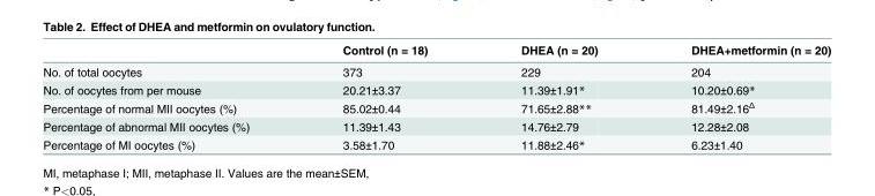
<table><thead><tr><td></td><td>Control (n = 18)</td><td>DHEA (n = 20)</td><td>DHEA+metformin (n = 20)</td></tr></thead><tbody><tr><td>No. of total oocytes</td><td>373</td><td>229</td><td>204</td></tr><tr><td>No. of oocytes from per mouse</td><td>20.21±3.37</td><td>11.39±1.91*</td><td>10.20±0.69*</td></tr><tr><td>Percentage of normal MII oocytes (%)</td><td>85.02±0.44</td><td>71.65±2.88**</td><td>81.49±2.16<sup>Δ</sup></td></tr><tr><td>Percentage of abnormal MII oocytes (%)</td><td>11.39±1.43</td><td>14.76±2.79</td><td>12.28±2.08</td></tr><tr><td>Percentage of MI oocytes (%)</td><td>3.58±1.70</td><td>11.88±2.46*</td><td>6.23±1.40</td></tr></tbody></table>